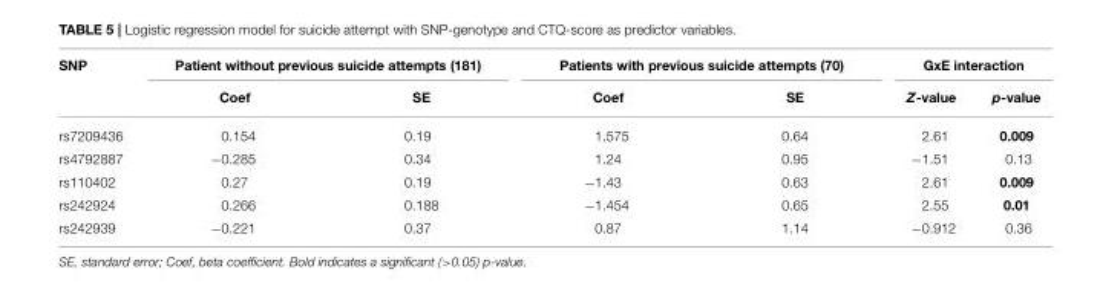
<table><thead><tr><td rowspan="2">SNP</td><td colspan="2">Patient without previous suicide attempts (181)</td><td colspan="2">Patients with previous suicide attempts (70)</td><td colspan="2">GxE interaction</td></tr><tr><td>Coef</td><td>SE</td><td>Coef</td><td>SE</td><td>Z-value</td><td>p-value</td></tr></thead><tbody><tr><td>rs7209436</td><td>0.154</td><td>0.19</td><td>1.575</td><td>0.64</td><td>2.61</td><td>0.009</td></tr><tr><td>rs4792887</td><td>−0.285</td><td>0.34</td><td>1.24</td><td>0.95</td><td>−1.51</td><td>0.13</td></tr><tr><td>rs110402</td><td>0.27</td><td>0.19</td><td>−1.43</td><td>0.63</td><td>2.61</td><td>0.009</td></tr><tr><td>rs242924</td><td>0.266</td><td>0.188</td><td>−1.454</td><td>0.65</td><td>2.55</td><td>0.01</td></tr><tr><td>rs242939</td><td>−0.221</td><td>0.37</td><td>0.87</td><td>1.14</td><td>−0.912</td><td>0.36</td></tr></tbody></table>